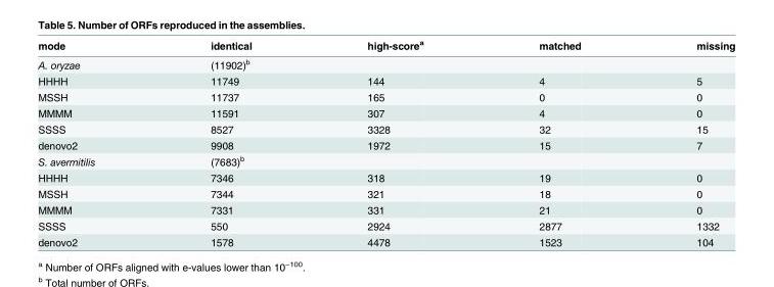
<table><thead><tr><td>mode</td><td>identical</td><td>high-score<sup>a</sup></td><td>matched</td><td>missing</td></tr></thead><tbody><tr><td>A. oryzae</td><td>(11902)<sup>b</sup></td><td></td><td></td><td></td></tr><tr><td>HHHH</td><td>11749</td><td>144</td><td>4</td><td>5</td></tr><tr><td>MSSH</td><td>11737</td><td>165</td><td>0</td><td>0</td></tr><tr><td>MMMM</td><td>11591</td><td>307</td><td>4</td><td>0</td></tr><tr><td>SSSS</td><td>8527</td><td>3328</td><td>32</td><td>15</td></tr><tr><td>denovo2</td><td>9908</td><td>1972</td><td>15</td><td>7</td></tr><tr><td>S. avermitilis</td><td>(7683)<sup>b</sup></td><td></td><td></td><td></td></tr><tr><td>HHHH</td><td>7346</td><td>318</td><td>19</td><td>0</td></tr><tr><td>MSSH</td><td>7344</td><td>321</td><td>18</td><td>0</td></tr><tr><td>MMMM</td><td>7331</td><td>331</td><td>21</td><td>0</td></tr><tr><td>SSSS</td><td>550</td><td>2924</td><td>2877</td><td>1332</td></tr><tr><td>denovo2</td><td>1578</td><td>4478</td><td>1523</td><td>104</td></tr></tbody></table>